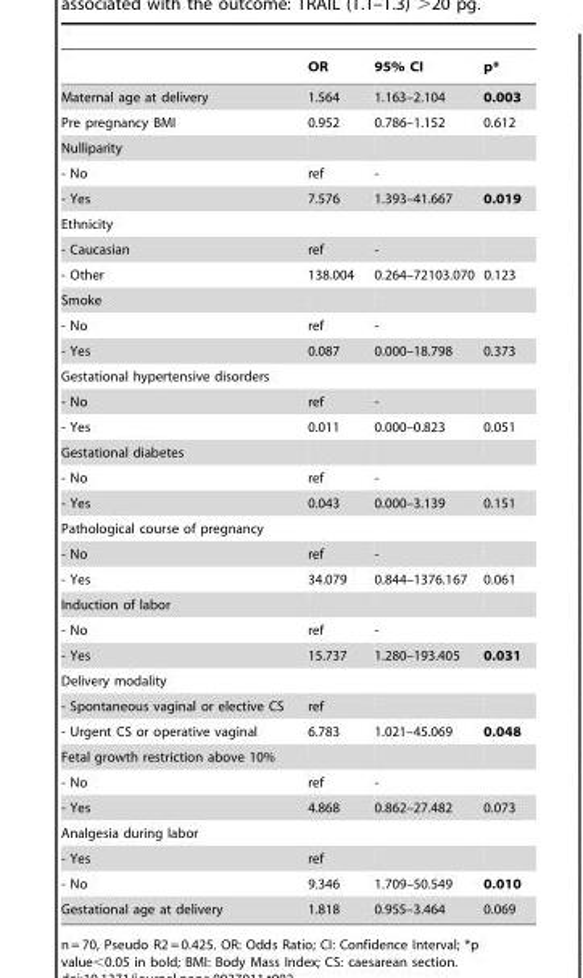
<table><thead><tr><td></td><td>OR</td><td>95% CI</td><td>p*</td></tr></thead><tbody><tr><td>Maternal age at delivery</td><td>1.564</td><td>1.163–2.104</td><td>0.003</td></tr><tr><td>Pre pregnancy BMI</td><td>0.952</td><td>0.786–1.152</td><td>0.612</td></tr><tr><td colspan="4">Nulliparity</td></tr><tr><td>- No</td><td>ref</td><td>-</td><td></td></tr><tr><td>- Yes</td><td>7.576</td><td>1.393–41.667</td><td>0.019</td></tr><tr><td colspan="4">Ethnicity</td></tr><tr><td>- Caucasian</td><td>ref</td><td>-</td><td></td></tr><tr><td>- Other</td><td>138.004</td><td>0.264–72103.070</td><td>0.123</td></tr><tr><td colspan="4">Smoke</td></tr><tr><td>- No</td><td>ref</td><td>-</td><td></td></tr><tr><td>- Yes</td><td>0.087</td><td>0.000–18.798</td><td>0.373</td></tr><tr><td colspan="4">Gestational hypertensive disorders</td></tr><tr><td>- No</td><td>ref</td><td>-</td><td></td></tr><tr><td>- Yes</td><td>0.011</td><td>0.000–0.823</td><td>0.051</td></tr><tr><td colspan="4">Gestational diabetes</td></tr><tr><td>- No</td><td>ref</td><td>-</td><td></td></tr><tr><td>- Yes</td><td>0.043</td><td>0.000–3.139</td><td>0.151</td></tr><tr><td colspan="4">Pathological course of pregnancy</td></tr><tr><td>- No</td><td>ref</td><td>-</td><td></td></tr><tr><td>- Yes</td><td>34.079</td><td>0.844–1376.167</td><td>0.061</td></tr><tr><td colspan="4">Induction of labor</td></tr><tr><td>- No</td><td>ref</td><td>-</td><td></td></tr><tr><td>- Yes</td><td>15.737</td><td>1.280–193.405</td><td>0.031</td></tr><tr><td colspan="4">Delivery modality</td></tr><tr><td>- Spontaneous vaginal or elective CS</td><td>ref</td><td></td><td></td></tr><tr><td>- Urgent CS or operative vaginal</td><td>6.783</td><td>1.021–45.069</td><td>0.048</td></tr><tr><td colspan="4">Fetal growth restriction above 10%</td></tr><tr><td>- No</td><td>ref</td><td>-</td><td></td></tr><tr><td>- Yes</td><td>4.868</td><td>0.862–27.482</td><td>0.073</td></tr><tr><td colspan="4">Analgesia during labor</td></tr><tr><td>- Yes</td><td>ref</td><td></td><td></td></tr><tr><td>- No</td><td>9.346</td><td>1.709–50.549</td><td>0.010</td></tr><tr><td>Gestational age at delivery</td><td>1.818</td><td>0.955–3.464</td><td>0.069</td></tr></tbody></table>